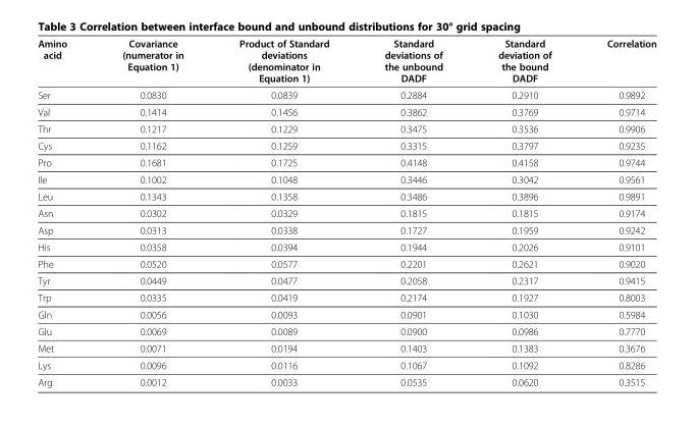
<table><thead><tr><td>Amino acid</td><td>Covariance (numerator in Equation 1)</td><td>Product of Standard deviations (denominator in Equation 1)</td><td>Standard deviations of the unbound DADF</td><td>Standard deviation of the bound DADF</td><td>Correlation</td></tr></thead><tbody><tr><td>Ser</td><td>0.0830</td><td>0.0839</td><td>0.2884</td><td>0.2910</td><td>0.9892</td></tr><tr><td>Val</td><td>0.1414</td><td>0.1456</td><td>0.3862</td><td>0.3769</td><td>0.9714</td></tr><tr><td>Thr</td><td>0.1217</td><td>0.1229</td><td>0.3475</td><td>0.3536</td><td>0.9906</td></tr><tr><td>Cys</td><td>0.1162</td><td>0.1259</td><td>0.3315</td><td>0.3797</td><td>0.9235</td></tr><tr><td>Pro</td><td>0.1681</td><td>0.1725</td><td>0.4148</td><td>0.4158</td><td>0.9744</td></tr><tr><td>Ile</td><td>0.1002</td><td>0.1048</td><td>0.3446</td><td>0.3042</td><td>0.9561</td></tr><tr><td>Leu</td><td>0.1343</td><td>0.1358</td><td>0.3486</td><td>0.3896</td><td>0.9891</td></tr><tr><td>Asn</td><td>0.0302</td><td>0.0329</td><td>0.1815</td><td>0.1815</td><td>0.9174</td></tr><tr><td>Asp</td><td>0.0313</td><td>0.0338</td><td>0.1727</td><td>0.1959</td><td>0.9242</td></tr><tr><td>His</td><td>0.0358</td><td>0.0394</td><td>0.1944</td><td>0.2026</td><td>0.9101</td></tr><tr><td>Phe</td><td>0.0520</td><td>0.0577</td><td>0.2201</td><td>0.2621</td><td>0.9020</td></tr><tr><td>Tyr</td><td>0.0449</td><td>0.0477</td><td>0.2058</td><td>0.2317</td><td>0.9415</td></tr><tr><td>Trp</td><td>0.0335</td><td>0.0419</td><td>0.2174</td><td>0.1927</td><td>0.8003</td></tr><tr><td>Gln</td><td>0.0056</td><td>0.0093</td><td>0.0901</td><td>0.1030</td><td>0.5984</td></tr><tr><td>Glu</td><td>0.0069</td><td>0.0089</td><td>0.0900</td><td>0.0986</td><td>0.7770</td></tr><tr><td>Met</td><td>0.0071</td><td>0.0194</td><td>0.1403</td><td>0.1383</td><td>0.3676</td></tr><tr><td>Lys</td><td>0.0096</td><td>0.0116</td><td>0.1067</td><td>0.1092</td><td>0.8286</td></tr><tr><td>Arg</td><td>0.0012</td><td>0.0033</td><td>0.0535</td><td>0.0620</td><td>0.3515</td></tr></tbody></table>